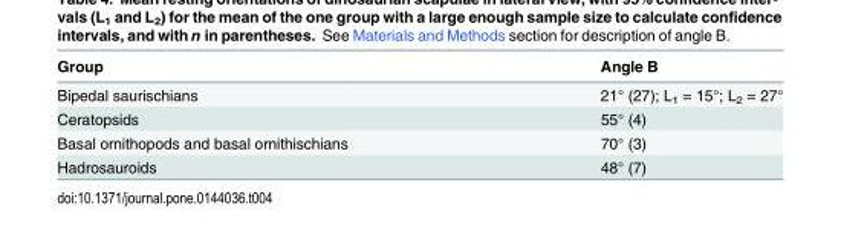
<table><thead><tr><td>Group</td><td>Angle B</td></tr></thead><tbody><tr><td>Bipedal saurischians</td><td>21° (27); L<sub>1</sub> = 15°; L<sub>2</sub> = 27°</td></tr><tr><td>Ceratopsids</td><td>55° (4)</td></tr><tr><td>Basal ornithopods and basal ornithischians</td><td>70° (3)</td></tr><tr><td>Hadrosauroids</td><td>48° (7)</td></tr></tbody></table>